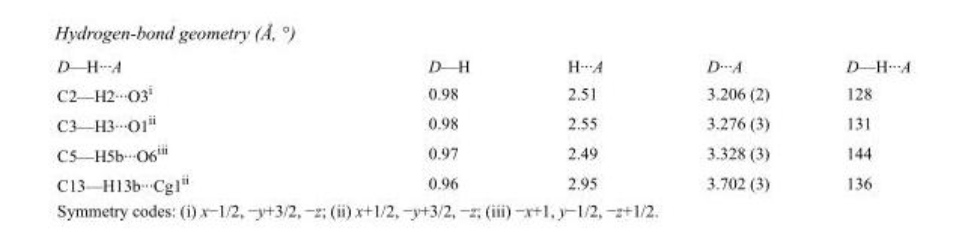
<table><tbody><tr><td>D—H···A</td><td>D—H</td><td>H···A</td><td>D···A</td><td>D—H···A</td></tr><tr><td>C2—H2···O3<sup>i</sup></td><td>0.98</td><td>2.51</td><td>3.206 (2)</td><td>128</td></tr><tr><td>C3—H3···O1<sup>ii</sup></td><td>0.98</td><td>2.55</td><td>3.276 (3)</td><td>131</td></tr><tr><td>C5—H5b···O6<sup>iii</sup></td><td>0.97</td><td>2.49</td><td>3.328 (3)</td><td>144</td></tr><tr><td>C13—H13b···Cg1<sup>ii</sup></td><td>0.96</td><td>2.95</td><td>3.702 (3)</td><td>136</td></tr></tbody></table>